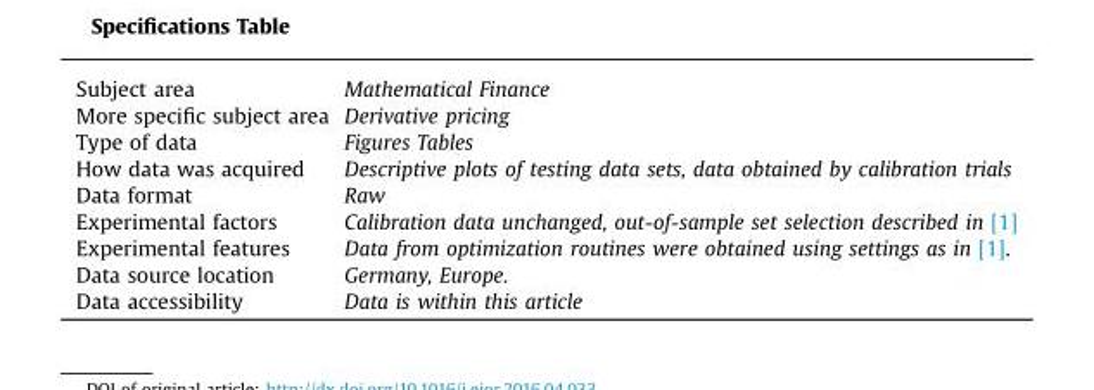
<table><tbody><tr><td>Subject area</td><td>Mathematical Finance</td></tr><tr><td>More specific subject area</td><td>Derivative pricing</td></tr><tr><td>Type of data</td><td>Figures Tables</td></tr><tr><td>How data was acquired</td><td>Descriptive plots of testing data sets, data obtained by calibration trials</td></tr><tr><td>Data format</td><td>Raw</td></tr><tr><td>Experimental factors</td><td>Calibration data unchanged, out-of-sample set selection described in [1]</td></tr><tr><td>Experimental features</td><td>Data from optimization routines were obtained using settings as in [1].</td></tr><tr><td>Data source location</td><td>Germany, Europe.</td></tr><tr><td>Data accessibility</td><td>Data is within this article</td></tr></tbody></table>